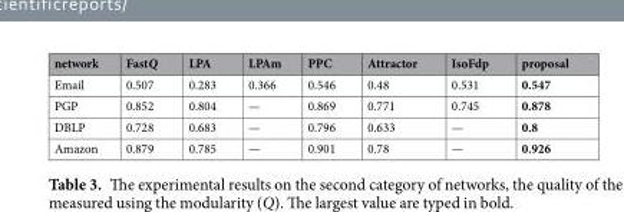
<table><thead><tr><td>network</td><td>FastQ</td><td>LPA</td><td>LPAm</td><td>PPC</td><td>Attractor</td><td>IsoFdp</td><td>proposal</td></tr></thead><tbody><tr><td>Email</td><td>0.507</td><td>0.283</td><td>0.366</td><td>0.546</td><td>0.48</td><td>0.531</td><td>0.547</td></tr><tr><td>PGP</td><td>0.852</td><td>0.804</td><td>—</td><td>0.869</td><td>0.771</td><td>0.745</td><td>0.878</td></tr><tr><td>DBLP</td><td>0.728</td><td>0.683</td><td>—</td><td>0.796</td><td>0.633</td><td>—</td><td>0.8</td></tr><tr><td>Amazon</td><td>0.879</td><td>0.785</td><td>—</td><td>0.901</td><td>0.78</td><td>—</td><td>0.926</td></tr></tbody></table>